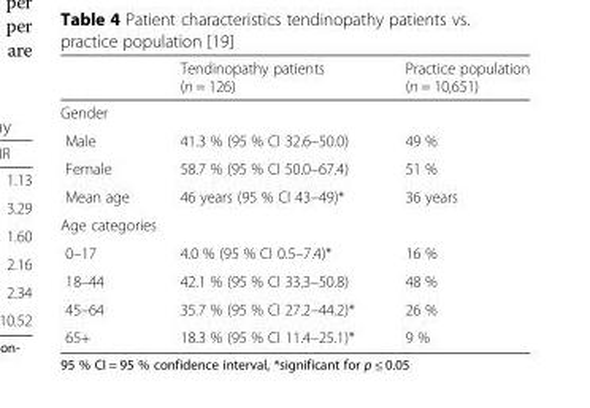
<table><thead><tr><td></td><td>Tendinopathy patients (n = 126)</td><td>Practice population (n = 10,651)</td></tr></thead><tbody><tr><td colspan="3">Gender</td></tr><tr><td>Male</td><td>41.3 % (95 % CI 32.6–50.0)</td><td>49 %</td></tr><tr><td>Female</td><td>58.7 % (95 % CI 50.0–67.4)</td><td>51 %</td></tr><tr><td>Mean age</td><td>46 years (95 % CI 43–49)*</td><td>36 years</td></tr><tr><td colspan="3">Age categories</td></tr><tr><td>0–17</td><td>4.0 % (95 % CI 0.5–7.4)*</td><td>16 %</td></tr><tr><td>18–44</td><td>42.1 % (95 % CI 33.3–50.8)</td><td>48 %</td></tr><tr><td>45–64</td><td>35.7 % (95 % CI 27.2–44.2)*</td><td>26 %</td></tr><tr><td>65+</td><td>18.3 % (95 % CI 11.4–25.1)*</td><td>9 %</td></tr></tbody></table>